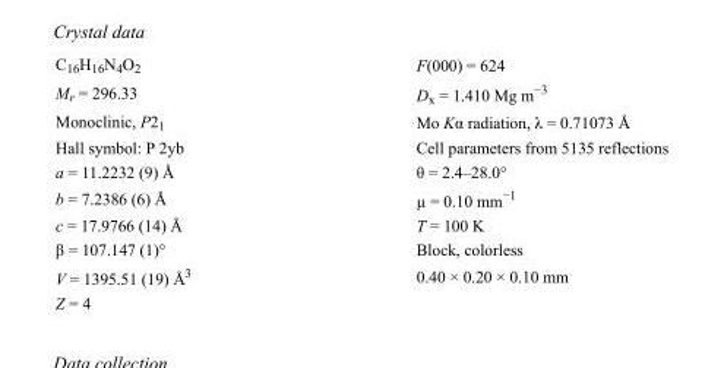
<table><tbody><tr><td>C<sub>16</sub>H<sub>16</sub>N<sub>4</sub>O<sub>2</sub></td><td>F(000) = 624</td></tr><tr><td>M<sub>r</sub> = 296.33</td><td>D<sub>x</sub> = 1.410 Mg m<sup>−3</sup></td></tr><tr><td>Monoclinic, P2<sub>1</sub></td><td>Mo Kα radiation, λ = 0.71073 Å</td></tr><tr><td>Hall symbol: P 2yb</td><td>Cell parameters from 5135 reflections</td></tr><tr><td>a = 11.2232 (9) Å</td><td>θ = 2.4–28.0°</td></tr><tr><td>b = 7.2386 (6) Å</td><td>µ = 0.10 mm<sup>−1</sup></td></tr><tr><td>c = 17.9766 (14) Å</td><td>T = 100 K</td></tr><tr><td>β = 107.147 (1)°</td><td>Block, colorless</td></tr><tr><td>V = 1395.51 (19) Å<sup>3</sup></td><td>0.40 × 0.20 × 0.10 mm</td></tr><tr><td>Z = 4</td><td></td></tr></tbody></table>